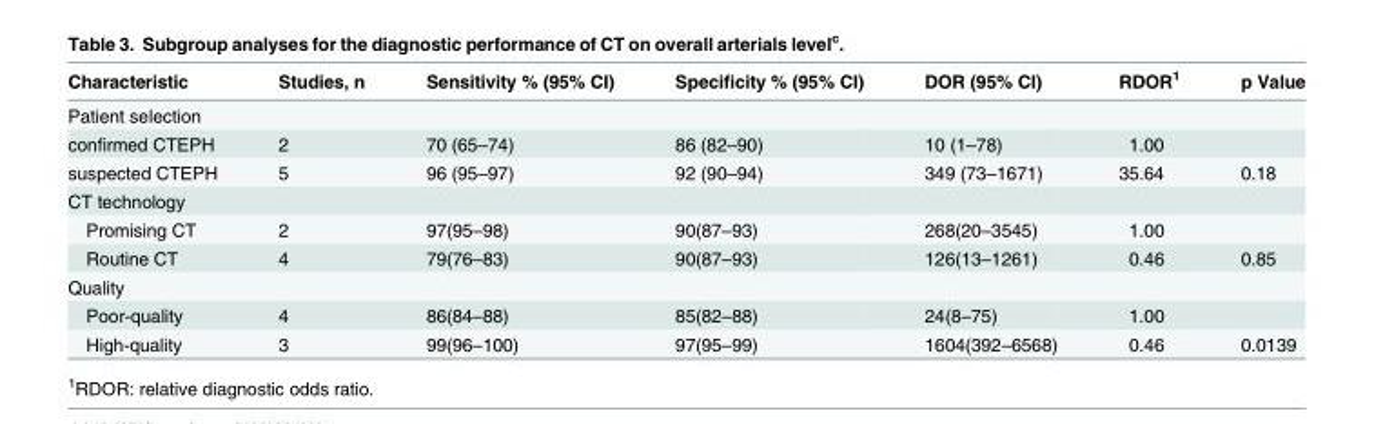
<table><thead><tr><td>Characteristic</td><td>Studies, n</td><td>Sensitivity % (95% CI)</td><td>Specificity % (95% CI)</td><td>DOR (95% CI)</td><td>RDOR<sup>1</sup></td><td>p Value</td></tr></thead><tbody><tr><td colspan="7">Patient selection</td></tr><tr><td>confirmed CTEPH</td><td>2</td><td>70 (65–74)</td><td>86 (82–90)</td><td>10 (1–78)</td><td>1.00</td><td></td></tr><tr><td>suspected CTEPH</td><td>5</td><td>96 (95–97)</td><td>92 (90–94)</td><td>349 (73–1671)</td><td>35.64</td><td>0.18</td></tr><tr><td colspan="7">CT technology</td></tr><tr><td>Promising CT</td><td>2</td><td>97(95–98)</td><td>90(87–93)</td><td>268(20–3545)</td><td>1.00</td><td></td></tr><tr><td>Routine CT</td><td>4</td><td>79(76–83)</td><td>90(87–93)</td><td>126(13–1261)</td><td>0.46</td><td>0.85</td></tr><tr><td colspan="7">Quality</td></tr><tr><td>Poor-quality</td><td>4</td><td>86(84–88)</td><td>85(82–88)</td><td>24(8–75)</td><td>1.00</td><td></td></tr><tr><td>High-quality</td><td>3</td><td>99(96–100)</td><td>97(95–99)</td><td>1604(392–6568)</td><td>0.46</td><td>0.0139</td></tr></tbody></table>